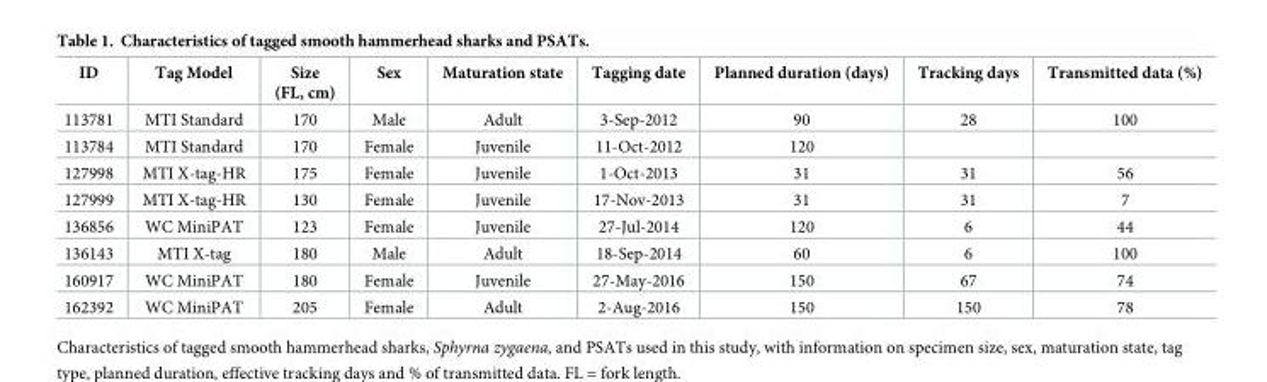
<table><thead><tr><td>ID</td><td>Tag Model</td><td>Size (FL, cm)</td><td>Sex</td><td>Maturation state</td><td>Tagging date</td><td>Planned duration (days)</td><td>Tracking days</td><td>Transmitted data (%)</td></tr></thead><tbody><tr><td>113781</td><td>MTI Standard</td><td>170</td><td>Male</td><td>Adult</td><td>3-Sep-2012</td><td>90</td><td>28</td><td>100</td></tr><tr><td>113784</td><td>MTI Standard</td><td>170</td><td>Female</td><td>Juvenile</td><td>11-Oct-2012</td><td>120</td><td></td><td></td></tr><tr><td>127998</td><td>MTI X-tag-HR</td><td>175</td><td>Female</td><td>Juvenile</td><td>1-Oct-2013</td><td>31</td><td>31</td><td>56</td></tr><tr><td>127999</td><td>MTI X-tag-HR</td><td>130</td><td>Female</td><td>Juvenile</td><td>17-Nov-2013</td><td>31</td><td>31</td><td>7</td></tr><tr><td>136856</td><td>WC MiniPAT</td><td>123</td><td>Female</td><td>Juvenile</td><td>27-Jul-2014</td><td>120</td><td>6</td><td>44</td></tr><tr><td>136143</td><td>MTI X-tag</td><td>180</td><td>Male</td><td>Adult</td><td>18-Sep-2014</td><td>60</td><td>6</td><td>100</td></tr><tr><td>160917</td><td>WC MiniPAT</td><td>180</td><td>Female</td><td>Juvenile</td><td>27-May-2016</td><td>150</td><td>67</td><td>74</td></tr><tr><td>162392</td><td>WC MiniPAT</td><td>205</td><td>Female</td><td>Adult</td><td>2-Aug-2016</td><td>150</td><td>150</td><td>78</td></tr></tbody></table>